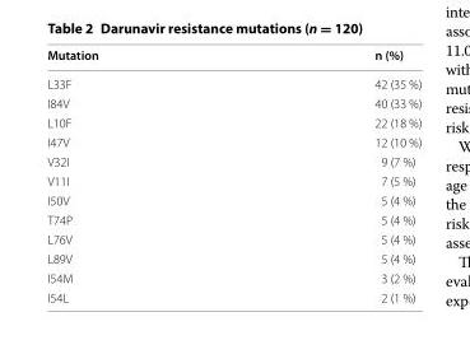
<table><thead><tr><td>Mutation</td><td>n (%)</td></tr></thead><tbody><tr><td>L33F</td><td>42 (35 %)</td></tr><tr><td>I84V</td><td>40 (33 %)</td></tr><tr><td>L10F</td><td>22 (18 %)</td></tr><tr><td>I47V</td><td>12 (10 %)</td></tr><tr><td>V32I</td><td>9 (7 %)</td></tr><tr><td>V11I</td><td>7 (5 %)</td></tr><tr><td>I50V</td><td>5 (4 %)</td></tr><tr><td>T74P</td><td>5 (4 %)</td></tr><tr><td>L76V</td><td>5 (4 %)</td></tr><tr><td>L89V</td><td>5 (4 %)</td></tr><tr><td>I54M</td><td>3 (2 %)</td></tr><tr><td>I54L</td><td>2 (1 %)</td></tr></tbody></table>